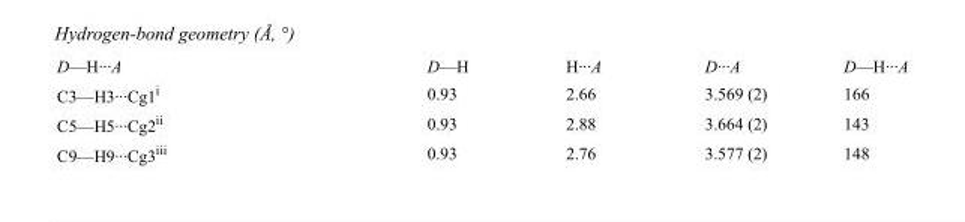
<table><tbody><tr><td>D—H···A</td><td>D—H</td><td>H···A</td><td>D···A</td><td>D—H···A</td></tr><tr><td>C3—H3···Cg1<sup>i</sup></td><td>0.93</td><td>2.66</td><td>3.569 (2)</td><td>166</td></tr><tr><td>C5—H5···Cg2<sup>ii</sup></td><td>0.93</td><td>2.88</td><td>3.664 (2)</td><td>143</td></tr><tr><td>C9—H9···Cg3<sup>iii</sup></td><td>0.93</td><td>2.76</td><td>3.577 (2)</td><td>148</td></tr></tbody></table>